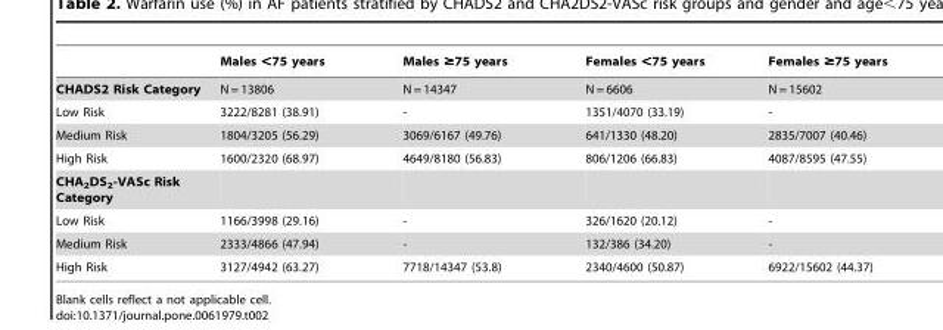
<table><thead><tr><td></td><td>Males &lt;75 years</td><td>Males ≥75 years</td><td>Females &lt;75 years</td><td>Females ≥75 years</td></tr></thead><tbody><tr><td>CHADS2 Risk Category</td><td>N = 13806</td><td>N = 14347</td><td>N = 6606</td><td>N = 15602</td></tr><tr><td>Low Risk</td><td>3222/8281 (38.91)</td><td>-</td><td>1351/4070 (33.19)</td><td>-</td></tr><tr><td>Medium Risk</td><td>1804/3205 (56.29)</td><td>3069/6167 (49.76)</td><td>641/1330 (48.20)</td><td>2835/7007 (40.46)</td></tr><tr><td>High Risk</td><td>1600/2320 (68.97)</td><td>4649/8180 (56.83)</td><td>806/1206 (66.83)</td><td>4087/8595 (47.55)</td></tr><tr><td colspan="5">CHA<sub>2</sub>DS<sub>2</sub>-VASc Risk Category</td></tr><tr><td>Low Risk</td><td>1166/3998 (29.16)</td><td>-</td><td>326/1620 (20.12)</td><td>-</td></tr><tr><td>Medium Risk</td><td>2333/4866 (47.94)</td><td>-</td><td>132/386 (34.20)</td><td>-</td></tr><tr><td>High Risk</td><td>3127/4942 (63.27)</td><td>7718/14347 (53.8)</td><td>2340/4600 (50.87)</td><td>6922/15602 (44.37)</td></tr></tbody></table>